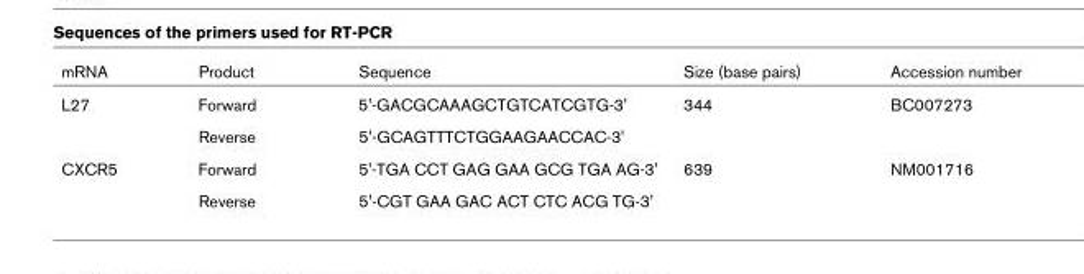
<table><thead><tr><td>mRNA</td><td>Product</td><td>Sequence</td><td>Size (base pairs)</td><td>Accession number</td></tr></thead><tbody><tr><td rowspan="2">L27</td><td>Forward</td><td>5&#x27;-GACGCAAAGCTGTCATCGTG-3&#x27;</td><td>344</td><td>BC007273</td></tr><tr><td>Reverse</td><td>5&#x27;-GCAGTTTCTGGAAGAACCAC-3&#x27;</td><td></td><td></td></tr><tr><td rowspan="2">CXCR5</td><td>Forward</td><td>5&#x27;-TGA CCT GAG GAA GCG TGA AG-3&#x27;</td><td>639</td><td>NM001716</td></tr><tr><td>Reverse</td><td>5&#x27;-CGT GAA GAC ACT CTC ACG TG-3&#x27;</td><td></td><td></td></tr></tbody></table>